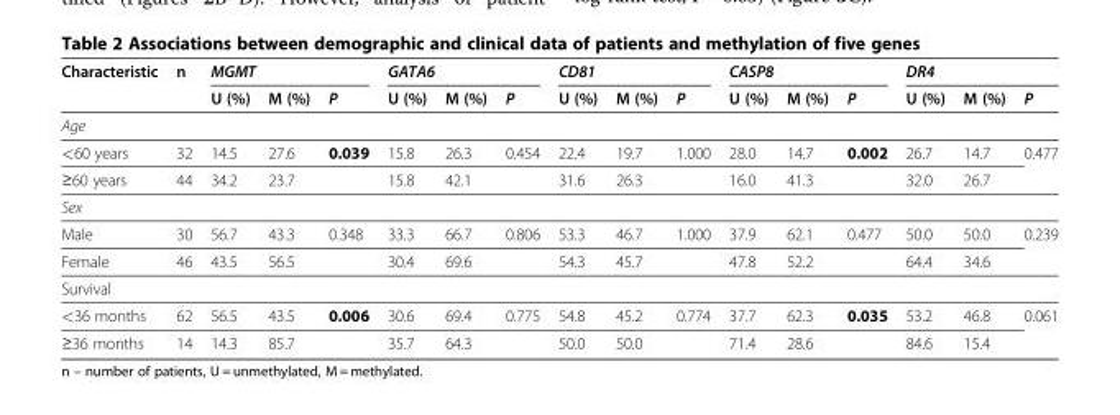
<table><thead><tr><td rowspan="2">Characteristic</td><td rowspan="2">n</td><td colspan="3">MGMT</td><td colspan="3">GATA6</td><td colspan="3">CD81</td><td colspan="3">CASP8</td><td colspan="3">DR4</td></tr><tr><td>U (%)</td><td>M (%)</td><td>P</td><td>U (%)</td><td>M (%)</td><td>P</td><td>U (%)</td><td>M (%)</td><td>P</td><td>U (%)</td><td>M (%)</td><td>P</td><td>U (%)</td><td>M (%)</td><td>P</td></tr></thead><tbody><tr><td colspan="17">Age</td></tr><tr><td>&lt;60 years</td><td>32</td><td>14.5</td><td>27.6</td><td>0.039</td><td>15.8</td><td>26.3</td><td>0.454</td><td>22.4</td><td>19.7</td><td>1.000</td><td>28.0</td><td>14.7</td><td>0.002</td><td>26.7</td><td>14.7</td><td rowspan="2">0.477</td></tr><tr><td>≥60 years</td><td>44</td><td>34.2</td><td>23.7</td><td></td><td>15.8</td><td>42.1</td><td></td><td>31.6</td><td>26.3</td><td></td><td>16.0</td><td>41.3</td><td></td><td>32.0</td><td>26.7</td></tr><tr><td colspan="17">Sex</td></tr><tr><td>Male</td><td>30</td><td>56.7</td><td>43.3</td><td>0.348</td><td>33.3</td><td>66.7</td><td>0.806</td><td>53.3</td><td>46.7</td><td>1.000</td><td>37.9</td><td>62.1</td><td>0.477</td><td>50.0</td><td>50.0</td><td rowspan="2">0.239</td></tr><tr><td>Female</td><td>46</td><td>43.5</td><td>56.5</td><td></td><td>30.4</td><td>69.6</td><td></td><td>54.3</td><td>45.7</td><td></td><td>47.8</td><td>52.2</td><td></td><td>64.4</td><td>34.6</td></tr><tr><td colspan="17">Survival</td></tr><tr><td>&lt;36 months</td><td>62</td><td>56.5</td><td>43.5</td><td>0.006</td><td>30.6</td><td>69.4</td><td>0.775</td><td>54.8</td><td>45.2</td><td>0.774</td><td>37.7</td><td>62.3</td><td>0.035</td><td>53.2</td><td>46.8</td><td rowspan="2">0.061</td></tr><tr><td>≥36 months</td><td>14</td><td>14.3</td><td>85.7</td><td></td><td>35.7</td><td>64.3</td><td></td><td>50.0</td><td>50.0</td><td></td><td>71.4</td><td>28.6</td><td></td><td>84.6</td><td>15.4</td></tr></tbody></table>